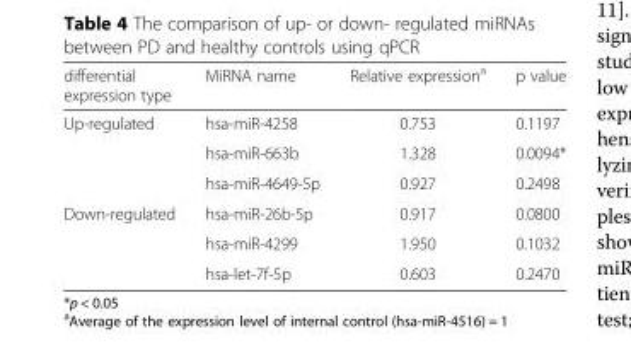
<table><thead><tr><td>differential expression type</td><td>MiRNA name</td><td>Relative expression<sup>a</sup></td><td>p value</td></tr></thead><tbody><tr><td rowspan="3">Up-regulated</td><td>hsa-miR-4258</td><td>0.753</td><td>0.1197</td></tr><tr><td>hsa-miR-663b</td><td>1.328</td><td>0.0094*</td></tr><tr><td>hsa-miR-4649-5p</td><td>0.927</td><td>0.2498</td></tr><tr><td rowspan="3">Down-regulated</td><td>hsa-miR-26b-5p</td><td>0.917</td><td>0.0800</td></tr><tr><td>hsa-miR-4299</td><td>1.950</td><td>0.1032</td></tr><tr><td>hsa-let-7f-5p</td><td>0.603</td><td>0.2470</td></tr></tbody></table>